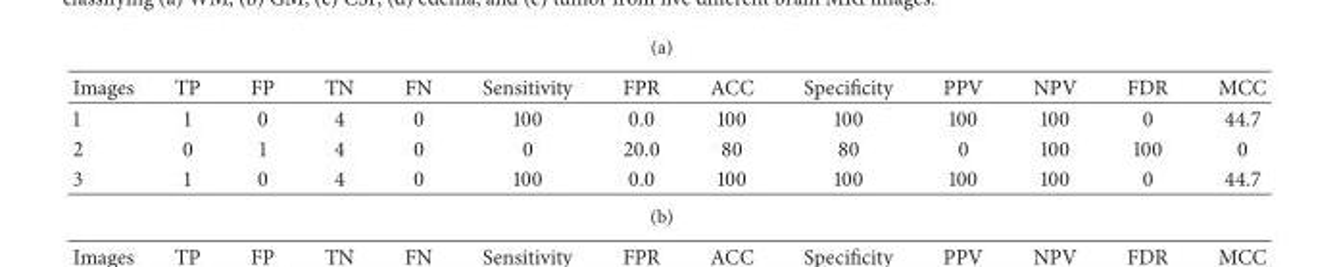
<table><thead><tr><td>Images</td><td>TP</td><td>FP</td><td>TN</td><td>FN</td><td>Sensitivity</td><td>FPR</td><td>ACC</td><td>Specificity</td><td>PPV</td><td>NPV</td><td>FDR</td><td>MCC</td></tr></thead><tbody><tr><td>1</td><td>1</td><td>0</td><td>4</td><td>0</td><td>100</td><td>0.0</td><td>100</td><td>100</td><td>100</td><td>100</td><td>0</td><td>44.7</td></tr><tr><td>2</td><td>0</td><td>1</td><td>4</td><td>0</td><td>0</td><td>20.0</td><td>80</td><td>80</td><td>0</td><td>100</td><td>100</td><td>0</td></tr><tr><td>3</td><td>1</td><td>0</td><td>4</td><td>0</td><td>100</td><td>0.0</td><td>100</td><td>100</td><td>100</td><td>100</td><td>0</td><td>44.7</td></tr></tbody></table>